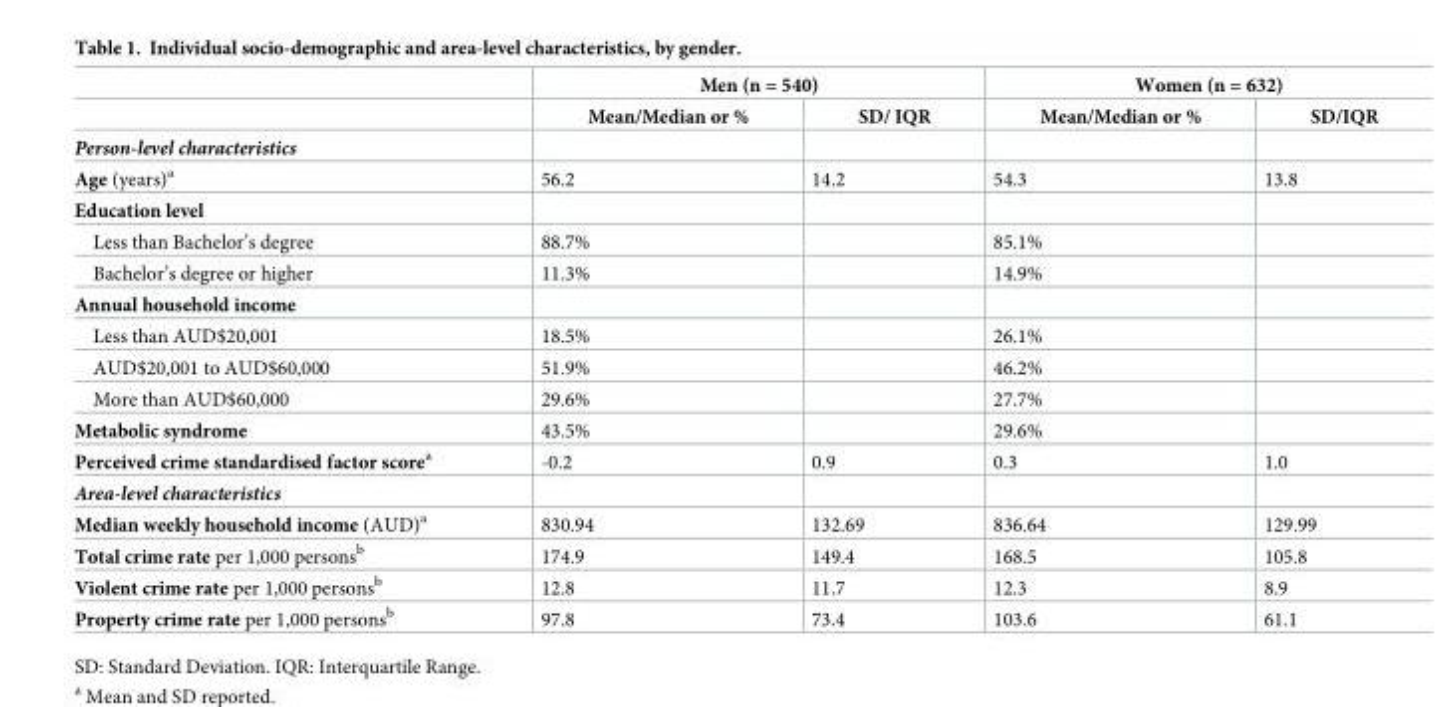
<table><thead><tr><td rowspan="2"></td><td colspan="2">Men (n = 540)</td><td colspan="2">Women (n = 632)</td></tr><tr><td>Mean/Median or %</td><td>SD/ IQR</td><td>Mean/Median or %</td><td>SD/IQR</td></tr></thead><tbody><tr><td colspan="5">Person-level characteristics</td></tr><tr><td>Age (years)<sup>a</sup></td><td>56.2</td><td>14.2</td><td>54.3</td><td>13.8</td></tr><tr><td colspan="5">Education level</td></tr><tr><td>Less than Bachelor’s degree</td><td>88.7%</td><td></td><td>85.1%</td><td></td></tr><tr><td>Bachelor’s degree or higher</td><td>11.3%</td><td></td><td>14.9%</td><td></td></tr><tr><td colspan="5">Annual household income</td></tr><tr><td>Less than AUD$20,001</td><td>18.5%</td><td></td><td>26.1%</td><td></td></tr><tr><td>AUD$20,001 to AUD$60,000</td><td>51.9%</td><td></td><td>46.2%</td><td></td></tr><tr><td>More than AUD$60,000</td><td>29.6%</td><td></td><td>27.7%</td><td></td></tr><tr><td>Metabolic syndrome</td><td>43.5%</td><td></td><td>29.6%</td><td></td></tr><tr><td>Perceived crime standardised factor score<sup>a</sup></td><td>-0.2</td><td>0.9</td><td>0.3</td><td>1.0</td></tr><tr><td colspan="5">Area-level characteristics</td></tr><tr><td>Median weekly household income (AUD)<sup>a</sup></td><td>830.94</td><td>132.69</td><td>836.64</td><td>129.99</td></tr><tr><td>Total crime rate per 1,000 persons<sup>b</sup></td><td>174.9</td><td>149.4</td><td>168.5</td><td>105.8</td></tr><tr><td>Violent crime rate per 1,000 persons<sup>b</sup></td><td>12.8</td><td>11.7</td><td>12.3</td><td>8.9</td></tr><tr><td>Property crime rate per 1,000 persons<sup>b</sup></td><td>97.8</td><td>73.4</td><td>103.6</td><td>61.1</td></tr></tbody></table>